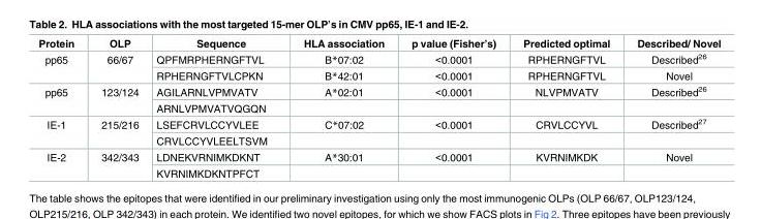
<table><thead><tr><td>Protein</td><td>OLP</td><td>Sequence</td><td>HLA association</td><td>p value (Fisher’s)</td><td>Predicted optimal</td><td>Described/ Novel</td></tr></thead><tbody><tr><td rowspan="2">pp65</td><td rowspan="2">66/67</td><td>QPFMRPHERNGFTVL</td><td>B*07:02</td><td>&lt;0.0001</td><td>RPHERNGFTVL</td><td>Described<sup>26</sup></td></tr><tr><td>RPHERNGFTVLCPKN</td><td>B*42:01</td><td>&lt;0.0001</td><td>RPHERNGFTVL</td><td>Novel</td></tr><tr><td rowspan="2">pp65</td><td rowspan="2">123/124</td><td>AGILARNLVPMVATV</td><td>A*02:01</td><td>&lt;0.0001</td><td>NLVPMVATV</td><td>Described<sup>26</sup></td></tr><tr><td>ARNLVPMVATVQGQN</td><td></td><td></td><td></td><td></td></tr><tr><td rowspan="2">IE-1</td><td rowspan="2">215/216</td><td>LSEFCRVLCCYVLEE</td><td>C*07:02</td><td>&lt;0.0001</td><td>CRVLCCYVL</td><td>Described<sup>27</sup></td></tr><tr><td>CRVLCCYVLEELTSVM</td><td></td><td></td><td></td><td></td></tr><tr><td rowspan="2">IE-2</td><td rowspan="2">342/343</td><td>LDNEKVRNIMKDKNT</td><td>A*30:01</td><td>&lt;0.0001</td><td>KVRNIMKDK</td><td>Novel</td></tr><tr><td>KVRNIMKDKNTPFCT</td><td></td><td></td><td></td><td></td></tr></tbody></table>